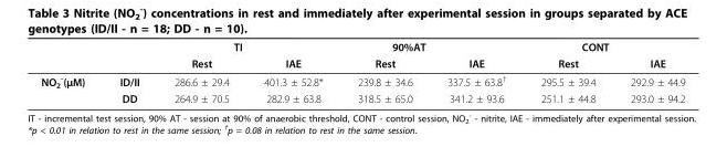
<table><thead><tr><td rowspan="2"></td><td rowspan="2"></td><td rowspan="2">TI Rest</td><td rowspan="2">IAE</td><td rowspan="2">90%AT Rest</td><td rowspan="2">IAE</td><td rowspan="2">CONT Rest</td><td rowspan="2">IAE</td></tr><tr></tr></thead><tbody><tr><td rowspan="2">NO<sub>2</sub> <sup>-</sup>(μM)</td><td>ID/II</td><td>286.6 ± 29.4</td><td>401.3 ± 52.8*</td><td>239.8 ± 34.6</td><td>337.5 ± 63.8<sup>†</sup></td><td>295.5 ± 39.4</td><td>292.9 ± 44.9</td></tr><tr><td>DD</td><td>264.9 ± 70.5</td><td>282.9 ± 63.8</td><td>318.5 ± 65.0</td><td>341.2 ± 93.6</td><td>251.1 ± 44.8</td><td>293.0 ± 94.2</td></tr></tbody></table>